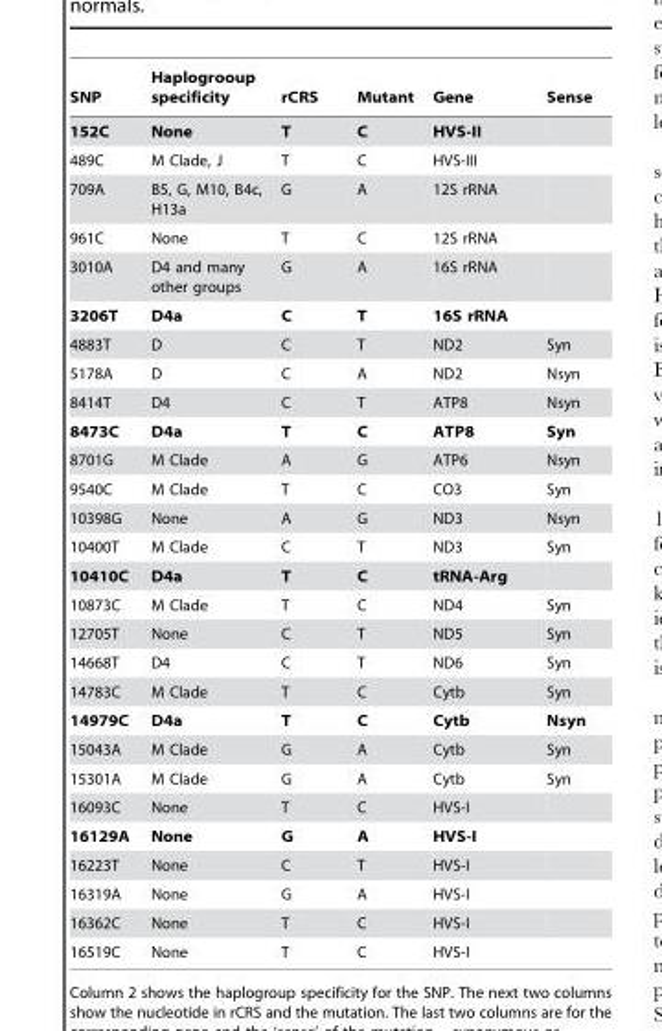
<table><thead><tr><td>SNP</td><td>Haplogrooup specificity</td><td>rCRS</td><td>Mutant</td><td>Gene</td><td>Sense</td></tr></thead><tbody><tr><td>152C</td><td>None</td><td>T</td><td>C</td><td>HVS-II</td><td></td></tr><tr><td>489C</td><td>M Clade, J</td><td>T</td><td>C</td><td>HVS-III</td><td></td></tr><tr><td>709A</td><td>B5, G, M10, B4c, H13a</td><td>G</td><td>A</td><td>12S rRNA</td><td></td></tr><tr><td>961C</td><td>None</td><td>T</td><td>C</td><td>12S rRNA</td><td></td></tr><tr><td>3010A</td><td>D4 and many other groups</td><td>G</td><td>A</td><td>16S rRNA</td><td></td></tr><tr><td>3206T</td><td>D4a</td><td>C</td><td>T</td><td>16S rRNA</td><td></td></tr><tr><td>4883T</td><td>D</td><td>C</td><td>T</td><td>ND2</td><td>Syn</td></tr><tr><td>5178A</td><td>D</td><td>C</td><td>A</td><td>ND2</td><td>Nsyn</td></tr><tr><td>8414T</td><td>D4</td><td>C</td><td>T</td><td>ATP8</td><td>Nsyn</td></tr><tr><td>8473C</td><td>D4a</td><td>T</td><td>C</td><td>ATP8</td><td>Syn</td></tr><tr><td>8701G</td><td>M Clade</td><td>A</td><td>G</td><td>ATP6</td><td>Nsyn</td></tr><tr><td>9540C</td><td>M Clade</td><td>T</td><td>C</td><td>CO3</td><td>Syn</td></tr><tr><td>10398G</td><td>None</td><td>A</td><td>G</td><td>ND3</td><td>Nsyn</td></tr><tr><td>10400T</td><td>M Clade</td><td>C</td><td>T</td><td>ND3</td><td>Syn</td></tr><tr><td>10410C</td><td>D4a</td><td>T</td><td>C</td><td>tRNA-Arg</td><td></td></tr><tr><td>10873C</td><td>M Clade</td><td>T</td><td>C</td><td>ND4</td><td>Syn</td></tr><tr><td>12705T</td><td>None</td><td>C</td><td>T</td><td>ND5</td><td>Syn</td></tr><tr><td>14668T</td><td>D4</td><td>C</td><td>T</td><td>ND6</td><td>Syn</td></tr><tr><td>14783C</td><td>M Clade</td><td>T</td><td>C</td><td>Cytb</td><td>Syn</td></tr><tr><td>14979C</td><td>D4a</td><td>T</td><td>C</td><td>Cytb</td><td>Nsyn</td></tr><tr><td>15043A</td><td>M Clade</td><td>G</td><td>A</td><td>Cytb</td><td>Syn</td></tr><tr><td>15301A</td><td>M Clade</td><td>G</td><td>A</td><td>Cytb</td><td>Syn</td></tr><tr><td>16093C</td><td>None</td><td>T</td><td>C</td><td>HVS-I</td><td></td></tr><tr><td>16129A</td><td>None</td><td>G</td><td>A</td><td>HVS-I</td><td></td></tr><tr><td>16223T</td><td>None</td><td>C</td><td>T</td><td>HVS-I</td><td></td></tr><tr><td>16319A</td><td>None</td><td>G</td><td>A</td><td>HVS-I</td><td></td></tr><tr><td>16362C</td><td>None</td><td>T</td><td>C</td><td>HVS-I</td><td></td></tr><tr><td>16519C</td><td>None</td><td>T</td><td>C</td><td>HVS-I</td><td></td></tr></tbody></table>